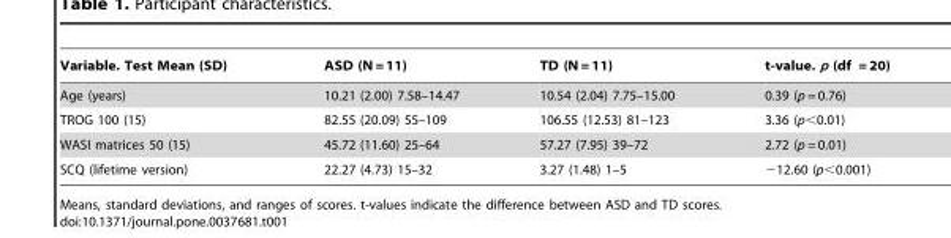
<table><thead><tr><td>Variable. Test Mean (SD)</td><td>ASD (N = 11)</td><td>TD (N = 11)</td><td>t-value. p (df = 20)</td></tr></thead><tbody><tr><td>Age (years)</td><td>10.21 (2.00) 7.58–14.47</td><td>10.54 (2.04) 7.75–15.00</td><td>0.39 (p = 0.76)</td></tr><tr><td>TROG 100 (15)</td><td>82.55 (20.09) 55–109</td><td>106.55 (12.53) 81–123</td><td>3.36 (p&lt;0.01)</td></tr><tr><td>WASI matrices 50 (15)</td><td>45.72 (11.60) 25–64</td><td>57.27 (7.95) 39–72</td><td>2.72 (p = 0.01)</td></tr><tr><td>SCQ (lifetime version)</td><td>22.27 (4.73) 15–32</td><td>3.27 (1.48) 1–5</td><td>−12.60 (p&lt;0.001)</td></tr></tbody></table>